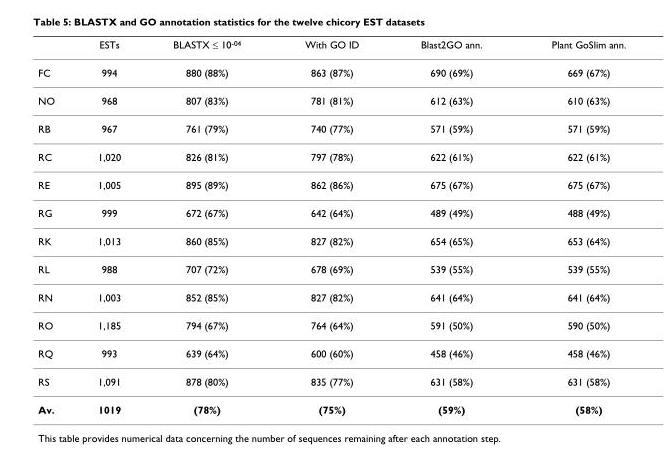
<table><thead><tr><td></td><td>ESTs</td><td>BLASTX ≤ 10<sup>-04</sup></td><td>With GO ID</td><td>Blast2GO ann.</td><td>Plant GoSlim ann.</td></tr></thead><tbody><tr><td>FC</td><td>994</td><td>880 (88%)</td><td>863 (87%)</td><td>690 (69%)</td><td>669 (67%)</td></tr><tr><td>NO</td><td>968</td><td>807 (83%)</td><td>781 (81%)</td><td>612 (63%)</td><td>610 (63%)</td></tr><tr><td>RB</td><td>967</td><td>761 (79%)</td><td>740 (77%)</td><td>571 (59%)</td><td>571 (59%)</td></tr><tr><td>RC</td><td>1,020</td><td>826 (81%)</td><td>797 (78%)</td><td>622 (61%)</td><td>622 (61%)</td></tr><tr><td>RE</td><td>1,005</td><td>895 (89%)</td><td>862 (86%)</td><td>675 (67%)</td><td>675 (67%)</td></tr><tr><td>RG</td><td>999</td><td>672 (67%)</td><td>642 (64%)</td><td>489 (49%)</td><td>488 (49%)</td></tr><tr><td>RK</td><td>1,013</td><td>860 (85%)</td><td>827 (82%)</td><td>654 (65%)</td><td>653 (64%)</td></tr><tr><td>RL</td><td>988</td><td>707 (72%)</td><td>678 (69%)</td><td>539 (55%)</td><td>539 (55%)</td></tr><tr><td>RN</td><td>1,003</td><td>852 (85%)</td><td>827 (82%)</td><td>641 (64%)</td><td>641 (64%)</td></tr><tr><td>RO</td><td>1,185</td><td>794 (67%)</td><td>764 (64%)</td><td>591 (50%)</td><td>590 (50%)</td></tr><tr><td>RQ</td><td>993</td><td>639 (64%)</td><td>600 (60%)</td><td>458 (46%)</td><td>458 (46%)</td></tr><tr><td>RS</td><td>1,091</td><td>878 (80%)</td><td>835 (77%)</td><td>631 (58%)</td><td>631 (58%)</td></tr><tr><td>Av.</td><td>1019</td><td>(78%)</td><td>(75%)</td><td>(59%)</td><td>(58%)</td></tr></tbody></table>